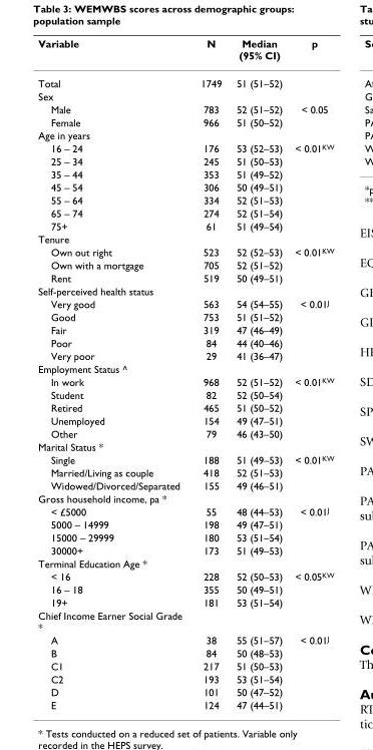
<table><thead><tr><td>Variable</td><td>N</td><td>Median (95% CI)</td><td>p</td></tr></thead><tbody><tr><td>Total</td><td>1749</td><td>51 (51–52)</td><td></td></tr><tr><td colspan="4">Sex</td></tr><tr><td>Male</td><td>783</td><td>52 (51–52)</td><td>&lt; 0.05</td></tr><tr><td>Female</td><td>966</td><td>51 (50–52)</td><td></td></tr><tr><td colspan="4">Age in years</td></tr><tr><td>16 – 24</td><td>176</td><td>53 (52–53)</td><td>&lt; 0.01<sup>KW</sup></td></tr><tr><td>25 – 34</td><td>245</td><td>51 (50–53)</td><td></td></tr><tr><td>35 – 44</td><td>353</td><td>51 (49–52)</td><td></td></tr><tr><td>45 – 54</td><td>306</td><td>50 (49–51)</td><td></td></tr><tr><td>55 – 64</td><td>334</td><td>52 (51–53)</td><td></td></tr><tr><td>65 – 74</td><td>274</td><td>52 (51–54)</td><td></td></tr><tr><td>75+</td><td>61</td><td>51 (49–54)</td><td></td></tr><tr><td colspan="4">Tenure</td></tr><tr><td>Own out right</td><td>523</td><td>52 (52–53)</td><td>&lt; 0.01<sup>KW</sup></td></tr><tr><td>Own with a mortgage</td><td>705</td><td>52 (51–52)</td><td></td></tr><tr><td>Rent</td><td>519</td><td>50 (49–51)</td><td></td></tr><tr><td colspan="4">Self-perceived health status</td></tr><tr><td>Very good</td><td>563</td><td>54 (54–55)</td><td>&lt; 0.01<sup>J</sup></td></tr><tr><td>Good</td><td>753</td><td>51 (51–52)</td><td></td></tr><tr><td>Fair</td><td>319</td><td>47 (46–49)</td><td></td></tr><tr><td>Poor</td><td>84</td><td>44 (40–46)</td><td></td></tr><tr><td>Very poor</td><td>29</td><td>41 (36–47)</td><td></td></tr><tr><td colspan="4">Employment Status ^</td></tr><tr><td>In work</td><td>968</td><td>52 (51–52)</td><td>&lt; 0.01<sup>KW</sup></td></tr><tr><td>Student</td><td>82</td><td>52 (50–54)</td><td></td></tr><tr><td>Retired</td><td>465</td><td>51 (50–52)</td><td></td></tr><tr><td>Unemployed</td><td>154</td><td>49 (47–51)</td><td></td></tr><tr><td>Other</td><td>79</td><td>46 (43–50)</td><td></td></tr><tr><td colspan="4">Marital Status *</td></tr><tr><td>Single</td><td>188</td><td>51 (49–53)</td><td>&lt; 0.01<sup>KW</sup></td></tr><tr><td>Married/Living as couple</td><td>418</td><td>52 (51–53)</td><td></td></tr><tr><td>Widowed/Divorced/Separated</td><td>155</td><td>49 (46–51)</td><td></td></tr><tr><td colspan="4">Gross household income, pa *</td></tr><tr><td>&lt; £5000</td><td>55</td><td>48 (44–53)</td><td>&lt; 0.01<sup>J</sup></td></tr><tr><td>5000 – 14999</td><td>198</td><td>49 (47–51)</td><td></td></tr><tr><td>15000 – 29999</td><td>180</td><td>53 (51–54)</td><td></td></tr><tr><td>30000+</td><td>173</td><td>51 (49–53)</td><td></td></tr><tr><td colspan="4">Terminal Education Age *</td></tr><tr><td>&lt; 16</td><td>228</td><td>52 (50–53)</td><td>&lt; 0.05<sup>KW</sup></td></tr><tr><td>16 – 18</td><td>355</td><td>50 (49–51)</td><td></td></tr><tr><td>19+</td><td>181</td><td>53 (51–54)</td><td></td></tr><tr><td colspan="4">Chief Income Earner Social Grade *</td></tr><tr><td>A</td><td>38</td><td>55 (51–57)</td><td>&lt; 0.01<sup>J</sup></td></tr><tr><td>B</td><td>84</td><td>50 (48–53)</td><td></td></tr><tr><td>C1</td><td>217</td><td>51 (50–53)</td><td></td></tr><tr><td>C2</td><td>193</td><td>53 (51–54)</td><td></td></tr><tr><td>D</td><td>101</td><td>50 (47–52)</td><td></td></tr><tr><td>E</td><td>124</td><td>47 (44–51)</td><td></td></tr></tbody></table>